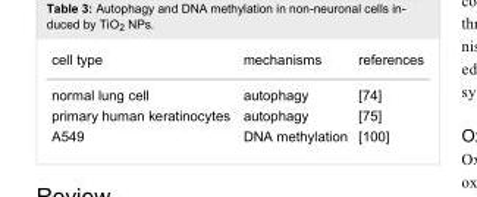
<table><tbody><tr><td>cell type</td><td>mechanisms</td><td>references</td></tr><tr><td>normal lung cell</td><td>autophagy</td><td>[74]</td></tr><tr><td>primary human keratinocytes</td><td>autophagy</td><td>[75]</td></tr><tr><td>A549</td><td>DNA methylation</td><td>[100]</td></tr></tbody></table>